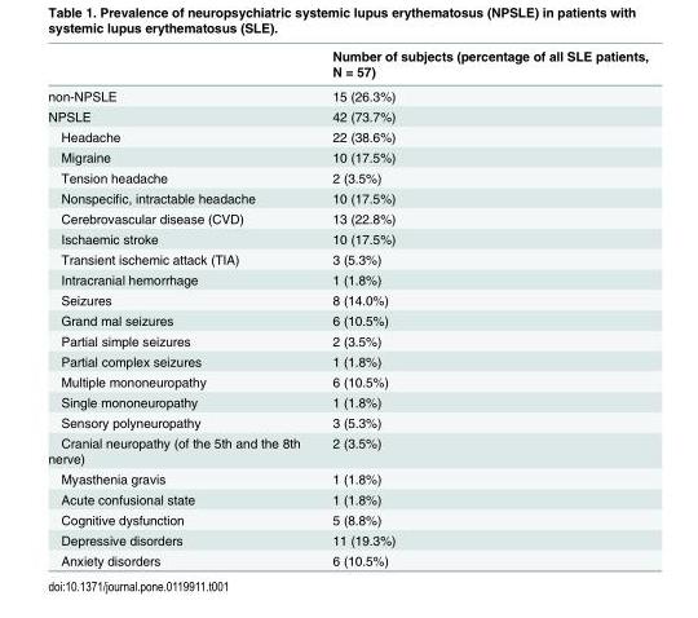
<table><thead><tr><td></td><td>Number of subjects (percentage of all SLE patients, N = 57)</td></tr></thead><tbody><tr><td>non-NPSLE</td><td>15 (26.3%)</td></tr><tr><td>NPSLE</td><td>42 (73.7%)</td></tr><tr><td>Headache</td><td>22 (38.6%)</td></tr><tr><td>Migraine</td><td>10 (17.5%)</td></tr><tr><td>Tension headache</td><td>2 (3.5%)</td></tr><tr><td>Nonspecific, intractable headache</td><td>10 (17.5%)</td></tr><tr><td>Cerebrovascular disease (CVD)</td><td>13 (22.8%)</td></tr><tr><td>Ischaemic stroke</td><td>10 (17.5%)</td></tr><tr><td>Transient ischemic attack (TIA)</td><td>3 (5.3%)</td></tr><tr><td>Intracranial hemorrhage</td><td>1 (1.8%)</td></tr><tr><td>Seizures</td><td>8 (14.0%)</td></tr><tr><td>Grand mal seizures</td><td>6 (10.5%)</td></tr><tr><td>Partial simple seizures</td><td>2 (3.5%)</td></tr><tr><td>Partial complex seizures</td><td>1 (1.8%)</td></tr><tr><td>Multiple mononeuropathy</td><td>6 (10.5%)</td></tr><tr><td>Single mononeuropathy</td><td>1 (1.8%)</td></tr><tr><td>Sensory polyneuropathy</td><td>3 (5.3%)</td></tr><tr><td>Cranial neuropathy (of the 5th and the 8th nerve)</td><td>2 (3.5%)</td></tr><tr><td>Myasthenia gravis</td><td>1 (1.8%)</td></tr><tr><td>Acute confusional state</td><td>1 (1.8%)</td></tr><tr><td>Cognitive dysfunction</td><td>5 (8.8%)</td></tr><tr><td>Depressive disorders</td><td>11 (19.3%)</td></tr><tr><td>Anxiety disorders</td><td>6 (10.5%)</td></tr></tbody></table>